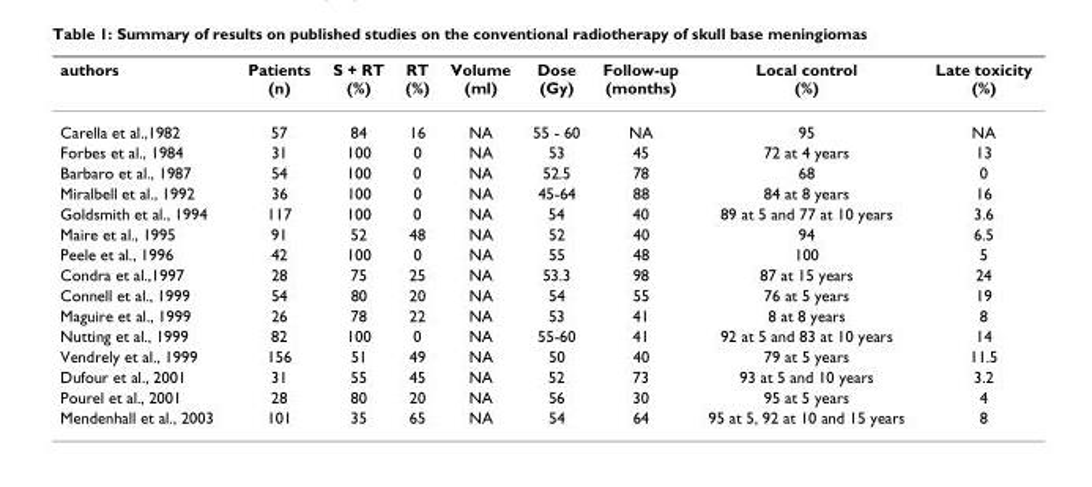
<table><thead><tr><td>authors</td><td>Patients (n)</td><td>S + RT (%)</td><td>RT (%)</td><td>Volume (ml)</td><td>Dose (Gy)</td><td>Follow-up (months)</td><td>Local control (%)</td><td>Late toxicity (%)</td></tr></thead><tbody><tr><td>Carella et al.,1982</td><td>57</td><td>84</td><td>16</td><td>NA</td><td>55 - 60</td><td>NA</td><td>95</td><td>NA</td></tr><tr><td>Forbes et al., 1984</td><td>31</td><td>100</td><td>0</td><td>NA</td><td>53</td><td>45</td><td>72 at 4 years</td><td>13</td></tr><tr><td>Barbaro et al., 1987</td><td>54</td><td>100</td><td>0</td><td>NA</td><td>52.5</td><td>78</td><td>68</td><td>0</td></tr><tr><td>Miralbell et al., 1992</td><td>36</td><td>100</td><td>0</td><td>NA</td><td>45-64</td><td>88</td><td>84 at 8 years</td><td>16</td></tr><tr><td>Goldsmith et al., 1994</td><td>117</td><td>100</td><td>0</td><td>NA</td><td>54</td><td>40</td><td>89 at 5 and 77 at 10 years</td><td>3.6</td></tr><tr><td>Maire et al., 1995</td><td>91</td><td>52</td><td>48</td><td>NA</td><td>52</td><td>40</td><td>94</td><td>6.5</td></tr><tr><td>Peele et al., 1996</td><td>42</td><td>100</td><td>0</td><td>NA</td><td>55</td><td>48</td><td>100</td><td>5</td></tr><tr><td>Condra et al.,1997</td><td>28</td><td>75</td><td>25</td><td>NA</td><td>53.3</td><td>98</td><td>87 at 15 years</td><td>24</td></tr><tr><td>Connell et al., 1999</td><td>54</td><td>80</td><td>20</td><td>NA</td><td>54</td><td>55</td><td>76 at 5 years</td><td>19</td></tr><tr><td>Maguire et al., 1999</td><td>26</td><td>78</td><td>22</td><td>NA</td><td>53</td><td>41</td><td>8 at 8 years</td><td>8</td></tr><tr><td>Nutting et al., 1999</td><td>82</td><td>100</td><td>0</td><td>NA</td><td>55-60</td><td>41</td><td>92 at 5 and 83 at 10 years</td><td>14</td></tr><tr><td>Vendrely et al., 1999</td><td>156</td><td>51</td><td>49</td><td>NA</td><td>50</td><td>40</td><td>79 at 5 years</td><td>11.5</td></tr><tr><td>Dufour et al., 2001</td><td>31</td><td>55</td><td>45</td><td>NA</td><td>52</td><td>73</td><td>93 at 5 and 10 years</td><td>3.2</td></tr><tr><td>Pourel et al., 2001</td><td>28</td><td>80</td><td>20</td><td>NA</td><td>56</td><td>30</td><td>95 at 5 years</td><td>4</td></tr><tr><td>Mendenhall et al., 2003</td><td>101</td><td>35</td><td>65</td><td>NA</td><td>54</td><td>64</td><td>95 at 5, 92 at 10 and 15 years</td><td>8</td></tr></tbody></table>